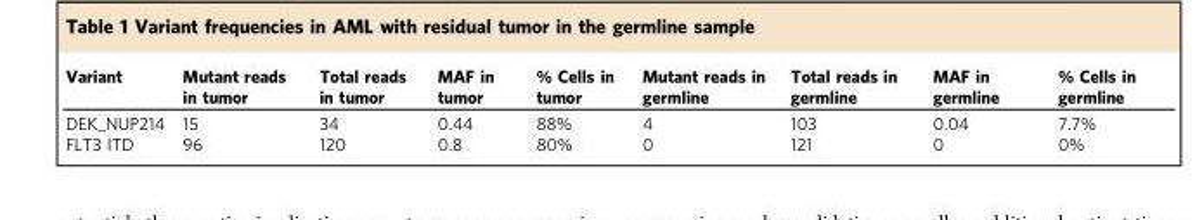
<table><thead><tr><td>Variant</td><td>Mutant reads in tumor</td><td>Total reads in tumor</td><td>MAF in tumor</td><td>% Cells in tumor</td><td>Mutant reads in germline</td><td>Total reads in germline</td><td>MAF in germline</td><td>% Cells in germline</td></tr></thead><tbody><tr><td>DEK_NUP214</td><td>15</td><td>34</td><td>0.44</td><td>88%</td><td>4</td><td>103</td><td>0.04</td><td>7.7%</td></tr><tr><td>FLT3 ITD</td><td>96</td><td>120</td><td>0.8</td><td>80%</td><td>0</td><td>121</td><td>0</td><td>0%</td></tr></tbody></table>